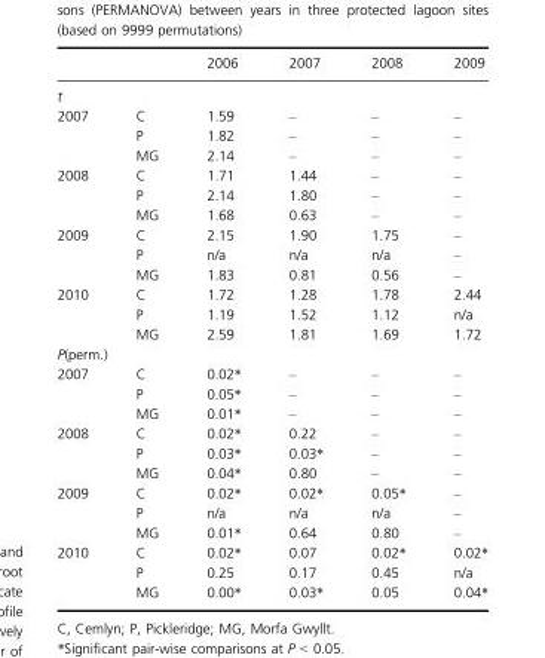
<table><thead><tr><td></td><td></td><td>2006</td><td>2007</td><td>2008</td><td>2009</td></tr></thead><tbody><tr><td colspan="6">t</td></tr><tr><td rowspan="3">2007</td><td>C</td><td>1.59</td><td>–</td><td>–</td><td>–</td></tr><tr><td>P</td><td>1.82</td><td>–</td><td>–</td><td>–</td></tr><tr><td>MG</td><td>2.14</td><td>–</td><td>–</td><td>–</td></tr><tr><td rowspan="3">2008</td><td>C</td><td>1.71</td><td>1.44</td><td>–</td><td>–</td></tr><tr><td>P</td><td>2.14</td><td>1.80</td><td>–</td><td>–</td></tr><tr><td>MG</td><td>1.68</td><td>0.63</td><td>–</td><td>–</td></tr><tr><td rowspan="3">2009</td><td>C</td><td>2.15</td><td>1.90</td><td>1.75</td><td>–</td></tr><tr><td>P</td><td>n/a</td><td>n/a</td><td>n/a</td><td>–</td></tr><tr><td>MG</td><td>1.83</td><td>0.81</td><td>0.56</td><td>–</td></tr><tr><td rowspan="3">2010</td><td>C</td><td>1.72</td><td>1.28</td><td>1.78</td><td>2.44</td></tr><tr><td>P</td><td>1.19</td><td>1.52</td><td>1.12</td><td>n/a</td></tr><tr><td>MG</td><td>2.59</td><td>1.81</td><td>1.69</td><td>1.72</td></tr><tr><td colspan="6">P(perm.)</td></tr><tr><td rowspan="3">2007</td><td>C</td><td>0.02*</td><td>–</td><td>–</td><td>–</td></tr><tr><td>P</td><td>0.05*</td><td>–</td><td>–</td><td>–</td></tr><tr><td>MG</td><td>0.01*</td><td>–</td><td>–</td><td>–</td></tr><tr><td rowspan="3">2008</td><td>C</td><td>0.02*</td><td>0.22</td><td>–</td><td>–</td></tr><tr><td>P</td><td>0.03*</td><td>0.03*</td><td>–</td><td>–</td></tr><tr><td>MG</td><td>0.04*</td><td>0.80</td><td>–</td><td>–</td></tr><tr><td rowspan="3">2009</td><td>C</td><td>0.02*</td><td>0.02*</td><td>0.05*</td><td>–</td></tr><tr><td>P</td><td>n/a</td><td>n/a</td><td>n/a</td><td>–</td></tr><tr><td>MG</td><td>0.01*</td><td>0.64</td><td>0.80</td><td>–</td></tr><tr><td rowspan="3">2010</td><td>C</td><td>0.02*</td><td>0.07</td><td>0.02*</td><td>0.02*</td></tr><tr><td>P</td><td>0.25</td><td>0.17</td><td>0.45</td><td>n/a</td></tr><tr><td>MG</td><td>0.00*</td><td>0.03*</td><td>0.05</td><td>0.04*</td></tr></tbody></table>